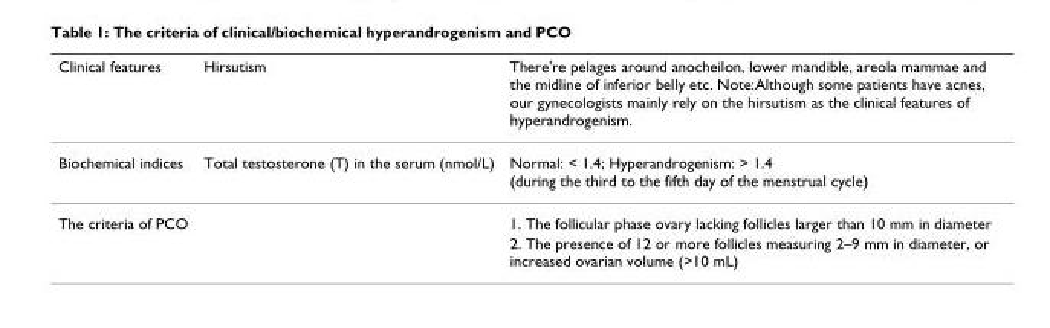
<table><thead><tr><td>Clinical features</td><td>Hirsutism</td><td>There&#x27;re pelages around anocheilon, lower mandible, areola mammae and the midline of inferior belly etc. Note:Although some patients have acnes, our gynecologists mainly rely on the hirsutism as the clinical features of hyperandrogenism.</td></tr></thead><tbody><tr><td>Biochemical indices</td><td>Total testosterone (T) in the serum (nmol/L)</td><td>Normal: &lt; 1.4; Hyperandrogenism: &gt; 1.4 (during the third to the fifth day of the menstrual cycle)</td></tr><tr><td rowspan="2">The criteria of PCO</td><td></td><td>1. The follicular phase ovary lacking follicles larger than 10 mm in diameter</td></tr><tr><td></td><td>2. The presence of 12 or more follicles measuring 2–9 mm in diameter, or increased ovarian volume (&gt;10 mL)</td></tr></tbody></table>